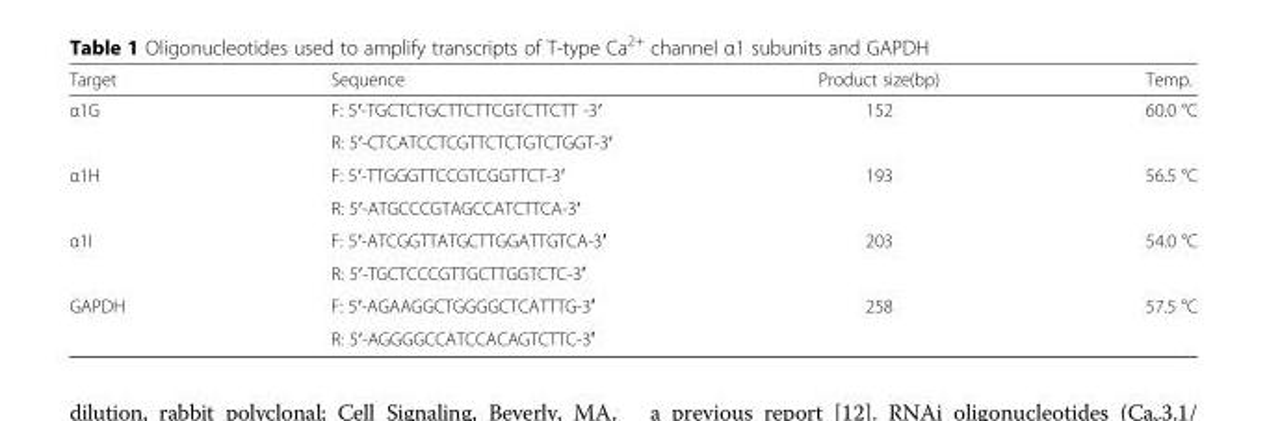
<table><thead><tr><td>Target</td><td>Sequence</td><td>Product size(bp)</td><td>Temp.</td></tr></thead><tbody><tr><td rowspan="2">α1G</td><td>F: 5′-TGCTCTGCTTCTTCGTCTTCTT -3′</td><td>152</td><td>60.0 °C</td></tr><tr><td>R: 5′-CTCATCCTCGTTCTCTGTCTGGT-3′</td><td></td><td></td></tr><tr><td rowspan="2">α1H</td><td>F: 5′-TTGGGTTCCGTCGGTTCT-3′</td><td>193</td><td>56.5 °C</td></tr><tr><td>R: 5′-ATGCCCGTAGCCATCTTCA-3′</td><td></td><td></td></tr><tr><td rowspan="2">α1I</td><td>F: 5′-ATCGGTTATGCTTGGATTGTCA-3′</td><td>203</td><td>54.0 °C</td></tr><tr><td>R: 5′-TGCTCCCGTTGCTTGGTCTC-3′</td><td></td><td></td></tr><tr><td rowspan="2">GAPDH</td><td>F: 5′-AGAAGGCTGGGGCTCATTTG-3′</td><td>258</td><td>57.5 °C</td></tr><tr><td>R: 5′-AGGGGCCATCCACAGTCTTC-3′</td><td></td><td></td></tr></tbody></table>